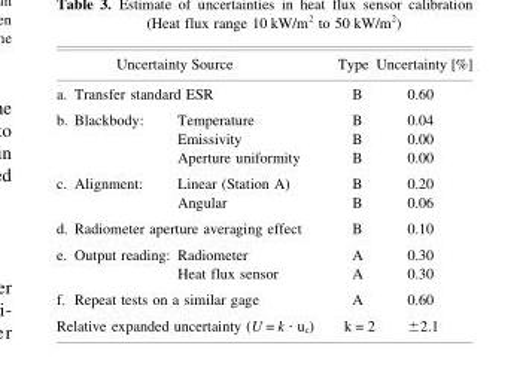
<table><thead><tr><td rowspan="2" colspan="2">Uncertainty Source a. Transfer standard ESR</td><td rowspan="3">Type B B</td><td rowspan="3">Uncertainty [%] 0.60 0.04</td></tr><tr></tr><tr><td>b. Blackbody:</td><td>Temperature</td></tr></thead><tbody><tr><td></td><td>Emissivity</td><td>B</td><td>0.00</td></tr><tr><td></td><td>Aperture uniformity</td><td>B</td><td>0.00</td></tr><tr><td rowspan="2">c. Alignment:</td><td>Linear (Station A)</td><td>B</td><td>0.20</td></tr><tr><td>Angular</td><td>B</td><td>0.06</td></tr><tr><td colspan="2">d. Radiometer aperture averaging effect</td><td>B</td><td>0.10</td></tr><tr><td rowspan="2">e. Output reading:</td><td>Radiometer</td><td>A</td><td>0.30</td></tr><tr><td>Heat flux sensor</td><td>A</td><td>0.30</td></tr><tr><td colspan="2">f. Repeat tests on a similar gage</td><td>A</td><td>0.60</td></tr><tr><td colspan="2">Relative expanded uncertainty (U = k · u<sub>c</sub>)</td><td>k = 2</td><td>±2.1</td></tr></tbody></table>